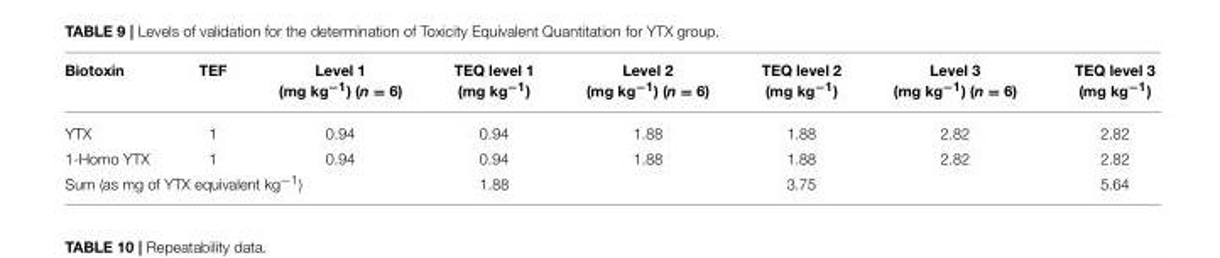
<table><thead><tr><td>Biotoxin</td><td>TEF</td><td>Level 1 (mg kg<sup>−1</sup>) (n = 6)</td><td>TEQ level 1 (mg kg<sup>−1</sup>)</td><td>Level 2 (mg kg<sup>−1</sup>) (n = 6)</td><td>TEQ level 2 (mg kg<sup>−1</sup>)</td><td>Level 3 (mg kg<sup>−1</sup>) (n = 6)</td><td>TEQ level 3 (mg kg<sup>−1</sup>)</td></tr></thead><tbody><tr><td>YTX</td><td>1</td><td>0.94</td><td>0.94</td><td>1.88</td><td>1.88</td><td>2.82</td><td>2.82</td></tr><tr><td>1-Homo YTX</td><td>1</td><td>0.94</td><td>0.94</td><td>1.88</td><td>1.88</td><td>2.82</td><td>2.82</td></tr><tr><td colspan="3">Sum (as mg of YTX equivalent kg<sup>−1</sup>)</td><td>1.88</td><td></td><td>3.75</td><td></td><td>5.64</td></tr></tbody></table>